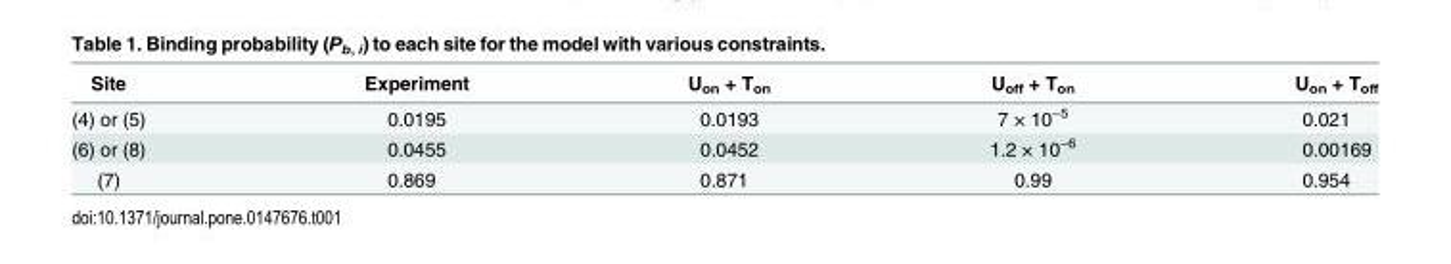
<table><thead><tr><td>Site</td><td>Experiment</td><td>U<sub>on</sub> + T<sub>on</sub></td><td>U<sub>off</sub> + T<sub>on</sub></td><td>U<sub>on</sub> + T<sub>off</sub></td></tr></thead><tbody><tr><td>(4) or (5)</td><td>0.0195</td><td>0.0193</td><td>7 × 10<sup>−5</sup></td><td>0.021</td></tr><tr><td>(6) or (8)</td><td>0.0455</td><td>0.0452</td><td>1.2 × 10<sup>−6</sup></td><td>0.00169</td></tr><tr><td>(7)</td><td>0.869</td><td>0.871</td><td>0.99</td><td>0.954</td></tr></tbody></table>